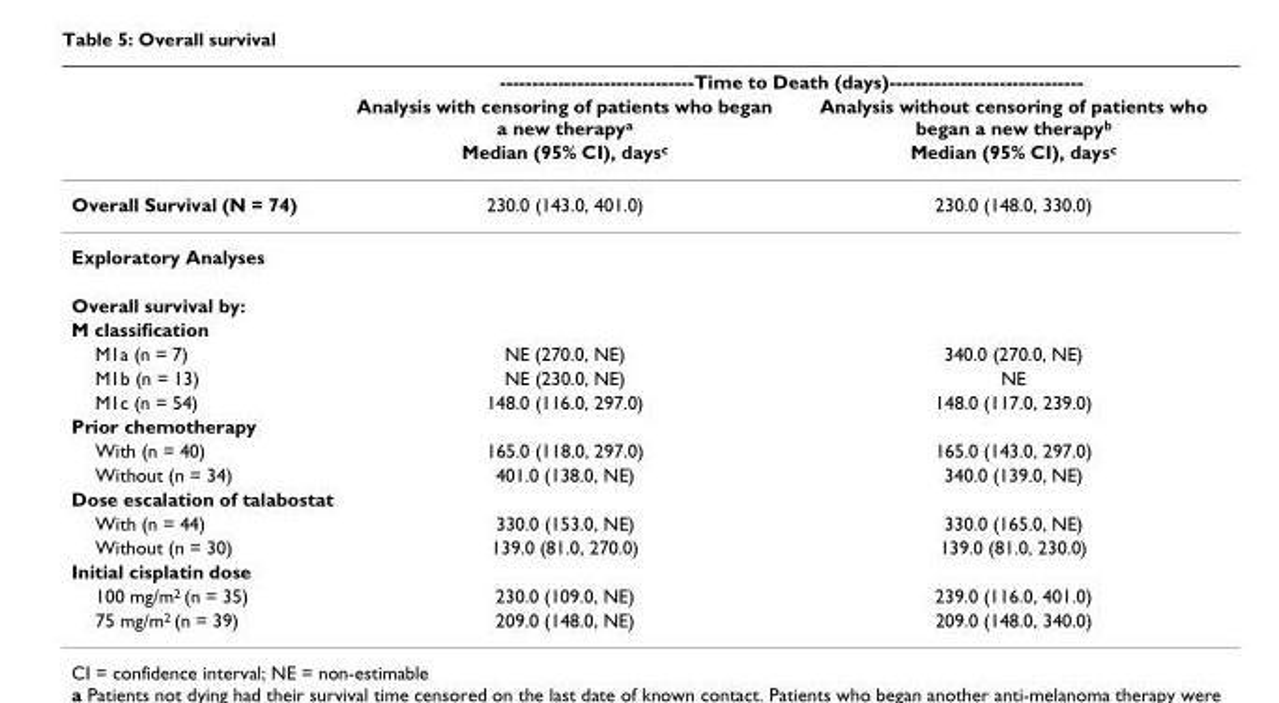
<table><thead><tr><td rowspan="3"></td><td colspan="2">------------------------------Time to Death (days)------------------------------</td></tr><tr><td rowspan="2">Analysis with censoring of patients who began a new therapya Median (95% CI), daysc</td><td rowspan="2">Analysis without censoring of patients who began a new therapyb Median (95% CI), daysc</td></tr><tr></tr></thead><tbody><tr><td>Overall Survival (N = 74)</td><td>230.0 (143.0, 401.0)</td><td>230.0 (148.0, 330.0)</td></tr><tr><td colspan="3">Exploratory Analyses</td></tr><tr><td colspan="3">Overall survival by:</td></tr><tr><td colspan="3">M classification</td></tr><tr><td>M1a (n = 7)</td><td>NE (270.0, NE)</td><td>340.0 (270.0, NE)</td></tr><tr><td>M1b (n = 13)</td><td>NE (230.0, NE)</td><td>NE</td></tr><tr><td>M1c (n = 54)</td><td>148.0 (116.0, 297.0)</td><td>148.0 (117.0, 239.0)</td></tr><tr><td colspan="3">Prior chemotherapy</td></tr><tr><td>With (n = 40)</td><td>165.0 (118.0, 297.0)</td><td>165.0 (143.0, 297.0)</td></tr><tr><td>Without (n = 34)</td><td>401.0 (138.0, NE)</td><td>340.0 (139.0, NE)</td></tr><tr><td colspan="3">Dose escalation of talabostat</td></tr><tr><td>With (n = 44)</td><td>330.0 (153.0, NE)</td><td>330.0 (165.0, NE)</td></tr><tr><td>Without (n = 30)</td><td>139.0 (81.0, 270.0)</td><td>139.0 (81.0, 230.0)</td></tr><tr><td colspan="3">Initial cisplatin dose</td></tr><tr><td>100 mg/m<sup>2</sup> (n = 35)</td><td>230.0 (109.0, NE)</td><td>239.0 (116.0, 401.0)</td></tr><tr><td>75 mg/m<sup>2</sup> (n = 39)</td><td>209.0 (148.0, NE)</td><td>209.0 (148.0, 340.0)</td></tr></tbody></table>